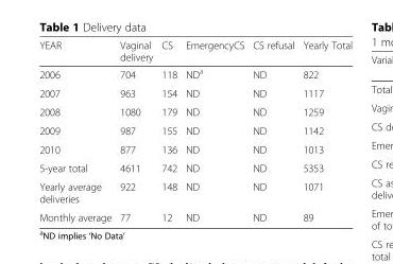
<table><thead><tr><td>YEAR</td><td>Vaginal delivery</td><td>CS</td><td>EmergencyCS</td><td>CS refusal</td><td>Yearly Total</td></tr></thead><tbody><tr><td>2006</td><td>704</td><td>118</td><td>ND<sup>a</sup></td><td>ND</td><td>822</td></tr><tr><td>2007</td><td>963</td><td>154</td><td>ND</td><td>ND</td><td>1117</td></tr><tr><td>2008</td><td>1080</td><td>179</td><td>ND</td><td>ND</td><td>1259</td></tr><tr><td>2009</td><td>987</td><td>155</td><td>ND</td><td>ND</td><td>1142</td></tr><tr><td>2010</td><td>877</td><td>136</td><td>ND</td><td>ND</td><td>1013</td></tr><tr><td>5-year total</td><td>4611</td><td>742</td><td>ND</td><td>ND</td><td>5353</td></tr><tr><td>Yearly average deliveries</td><td>922</td><td>148</td><td>ND</td><td>ND</td><td>1071</td></tr><tr><td>Monthly average</td><td>77</td><td>12</td><td>ND</td><td>ND</td><td>89</td></tr></tbody></table>